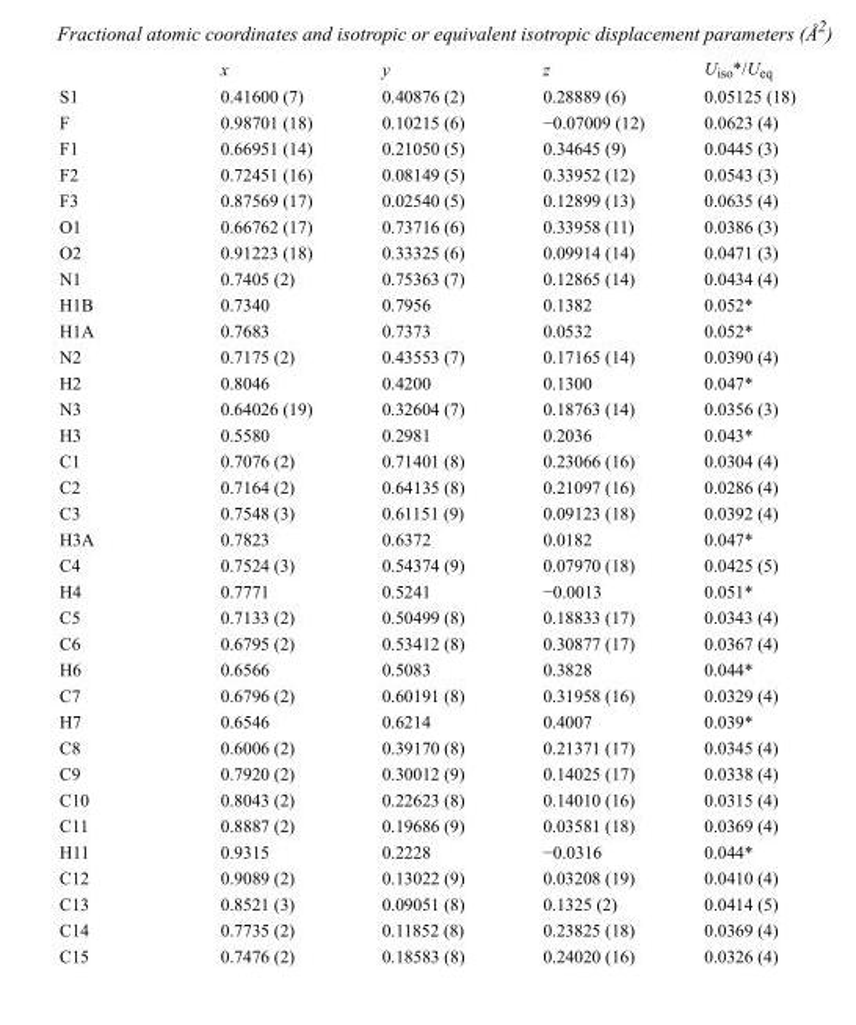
<table><thead><tr><td></td><td>x</td><td>y</td><td>z</td><td>U<sub>iso</sub>*/U<sub>eq</sub></td></tr></thead><tbody><tr><td>S1</td><td>0.41600 (7)</td><td>0.40876 (2)</td><td>0.28889 (6)</td><td>0.05125 (18)</td></tr><tr><td>F</td><td>0.98701 (18)</td><td>0.10215 (6)</td><td>−0.07009 (12)</td><td>0.0623 (4)</td></tr><tr><td>F1</td><td>0.66951 (14)</td><td>0.21050 (5)</td><td>0.34645 (9)</td><td>0.0445 (3)</td></tr><tr><td>F2</td><td>0.72451 (16)</td><td>0.08149 (5)</td><td>0.33952 (12)</td><td>0.0543 (3)</td></tr><tr><td>F3</td><td>0.87569 (17)</td><td>0.02540 (5)</td><td>0.12899 (13)</td><td>0.0635 (4)</td></tr><tr><td>O1</td><td>0.66762 (17)</td><td>0.73716 (6)</td><td>0.33958 (11)</td><td>0.0386 (3)</td></tr><tr><td>O2</td><td>0.91223 (18)</td><td>0.33325 (6)</td><td>0.09914 (14)</td><td>0.0471 (3)</td></tr><tr><td>N1</td><td>0.7405 (2)</td><td>0.75363 (7)</td><td>0.12865 (14)</td><td>0.0434 (4)</td></tr><tr><td>H1B</td><td>0.7340</td><td>0.7956</td><td>0.1382</td><td>0.052*</td></tr><tr><td>H1A</td><td>0.7683</td><td>0.7373</td><td>0.0532</td><td>0.052*</td></tr><tr><td>N2</td><td>0.7175 (2)</td><td>0.43553 (7)</td><td>0.17165 (14)</td><td>0.0390 (4)</td></tr><tr><td>H2</td><td>0.8046</td><td>0.4200</td><td>0.1300</td><td>0.047*</td></tr><tr><td>N3</td><td>0.64026 (19)</td><td>0.32604 (7)</td><td>0.18763 (14)</td><td>0.0356 (3)</td></tr><tr><td>H3</td><td>0.5580</td><td>0.2981</td><td>0.2036</td><td>0.043*</td></tr><tr><td>C1</td><td>0.7076 (2)</td><td>0.71401 (8)</td><td>0.23066 (16)</td><td>0.0304 (4)</td></tr><tr><td>C2</td><td>0.7164 (2)</td><td>0.64135 (8)</td><td>0.21097 (16)</td><td>0.0286 (4)</td></tr><tr><td>C3</td><td>0.7548 (3)</td><td>0.61151 (9)</td><td>0.09123 (18)</td><td>0.0392 (4)</td></tr><tr><td>H3A</td><td>0.7823</td><td>0.6372</td><td>0.0182</td><td>0.047*</td></tr><tr><td>C4</td><td>0.7524 (3)</td><td>0.54374 (9)</td><td>0.07970 (18)</td><td>0.0425 (5)</td></tr><tr><td>H4</td><td>0.7771</td><td>0.5241</td><td>−0.0013</td><td>0.051*</td></tr><tr><td>C5</td><td>0.7133 (2)</td><td>0.50499 (8)</td><td>0.18833 (17)</td><td>0.0343 (4)</td></tr><tr><td>C6</td><td>0.6795 (2)</td><td>0.53412 (8)</td><td>0.30877 (17)</td><td>0.0367 (4)</td></tr><tr><td>H6</td><td>0.6566</td><td>0.5083</td><td>0.3828</td><td>0.044*</td></tr><tr><td>C7</td><td>0.6796 (2)</td><td>0.60191 (8)</td><td>0.31958 (16)</td><td>0.0329 (4)</td></tr><tr><td>H7</td><td>0.6546</td><td>0.6214</td><td>0.4007</td><td>0.039*</td></tr><tr><td>C8</td><td>0.6006 (2)</td><td>0.39170 (8)</td><td>0.21371 (17)</td><td>0.0345 (4)</td></tr><tr><td>C9</td><td>0.7920 (2)</td><td>0.30012 (9)</td><td>0.14025 (17)</td><td>0.0338 (4)</td></tr><tr><td>C10</td><td>0.8043 (2)</td><td>0.22623 (8)</td><td>0.14010 (16)</td><td>0.0315 (4)</td></tr><tr><td>C11</td><td>0.8887 (2)</td><td>0.19686 (9)</td><td>0.03581 (18)</td><td>0.0369 (4)</td></tr><tr><td>H11</td><td>0.9315</td><td>0.2228</td><td>−0.0316</td><td>0.044*</td></tr><tr><td>C12</td><td>0.9089 (2)</td><td>0.13022 (9)</td><td>0.03208 (19)</td><td>0.0410 (4)</td></tr><tr><td>C13</td><td>0.8521 (3)</td><td>0.09051 (8)</td><td>0.1325 (2)</td><td>0.0414 (5)</td></tr><tr><td>C14</td><td>0.7735 (2)</td><td>0.11852 (8)</td><td>0.23825 (18)</td><td>0.0369 (4)</td></tr><tr><td>C15</td><td>0.7476 (2)</td><td>0.18583 (8)</td><td>0.24020 (16)</td><td>0.0326 (4)</td></tr></tbody></table>